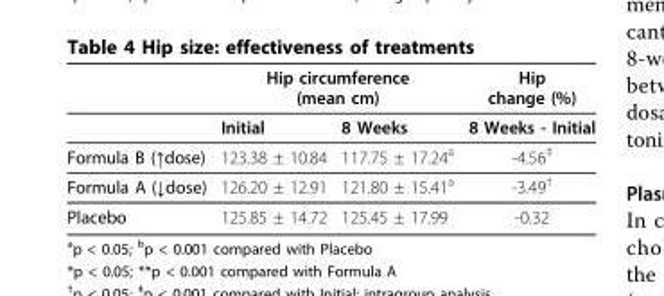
<table><thead><tr><td rowspan="2"></td><td colspan="2">Hip circumference (mean cm)</td><td rowspan="2">Hip change (%) 8 Weeks - Initial</td></tr><tr><td>Initial</td><td>8 Weeks</td></tr></thead><tbody><tr><td>Formula B (↑dose)</td><td>123.38 ± 10.84</td><td>117.75 ± 17.24<sup>a</sup></td><td>-4.56<sup>‡</sup></td></tr><tr><td>Formula A (↓dose)</td><td>126.20 ± 12.91</td><td>121.80 ± 15.41<sup>a</sup></td><td>-3.49<sup>†</sup></td></tr><tr><td>Placebo</td><td>125.85 ± 14.72</td><td>125.45 ± 17.99</td><td>-0.32</td></tr></tbody></table>